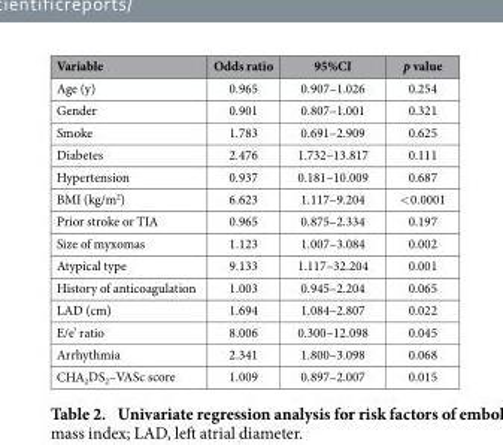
<table><thead><tr><td>Variable</td><td>Odds ratio</td><td>95%CI</td><td>p value</td></tr></thead><tbody><tr><td>Age (y)</td><td>0.965</td><td>0.907–1.026</td><td>0.254</td></tr><tr><td>Gender</td><td>0.901</td><td>0.807–1.001</td><td>0.321</td></tr><tr><td>Smoke</td><td>1.783</td><td>0.691–2.909</td><td>0.625</td></tr><tr><td>Diabetes</td><td>2.476</td><td>1.732–13.817</td><td>0.111</td></tr><tr><td>Hypertension</td><td>0.937</td><td>0.181–10.009</td><td>0.687</td></tr><tr><td>BMI (kg/m<sup>2</sup>)</td><td>6.623</td><td>1.117–9.204</td><td>&lt; 0.0001</td></tr><tr><td>Prior stroke or TIA</td><td>0.965</td><td>0.875–2.334</td><td>0.197</td></tr><tr><td>Size of myxomas</td><td>1.123</td><td>1.007–3.084</td><td>0.002</td></tr><tr><td>Atypical type</td><td>9.133</td><td>1.117–32.204</td><td>0.001</td></tr><tr><td>History of anticoagulation</td><td>1.003</td><td>0.945–2.204</td><td>0.065</td></tr><tr><td>LAD (cm)</td><td>1.694</td><td>1.084–2.807</td><td>0.022</td></tr><tr><td>E/e’ ratio</td><td>8.006</td><td>0.300–12.098</td><td>0.045</td></tr><tr><td>Arrhythmia</td><td>2.341</td><td>1.800–3.098</td><td>0.068</td></tr><tr><td>CHA<sub>2</sub>DS<sub>2</sub>–VASc score</td><td>1.009</td><td>0.897–2.007</td><td>0.015</td></tr></tbody></table>